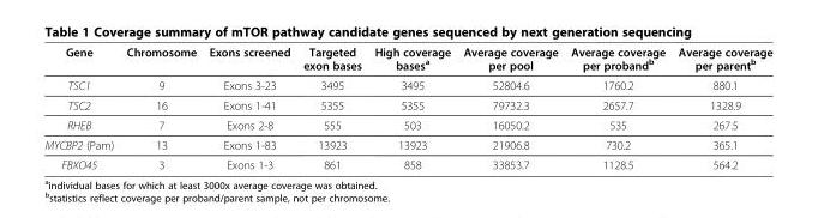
<table><thead><tr><td>Gene</td><td>Chromosome</td><td>Exons screened</td><td>Targeted exon bases</td><td>High coverage bases<sup>a</sup></td><td>Average coverage per pool</td><td>Average coverage per proband<sup>b</sup></td><td>Average coverage per parent<sup>b</sup></td></tr></thead><tbody><tr><td>TSC1</td><td>9</td><td>Exons 3-23</td><td>3495</td><td>3495</td><td>52804.6</td><td>1760.2</td><td>880.1</td></tr><tr><td>TSC2</td><td>16</td><td>Exons 1-41</td><td>5355</td><td>5355</td><td>79732.3</td><td>2657.7</td><td>1328.9</td></tr><tr><td>RHEB</td><td>7</td><td>Exons 2-8</td><td>555</td><td>503</td><td>16050.2</td><td>535</td><td>267.5</td></tr><tr><td>MYCBP2 (Pam)</td><td>13</td><td>Exons 1-83</td><td>13923</td><td>13923</td><td>21906.8</td><td>730.2</td><td>365.1</td></tr><tr><td>FBXO45</td><td>3</td><td>Exons 1-3</td><td>861</td><td>858</td><td>33853.7</td><td>1128.5</td><td>564.2</td></tr></tbody></table>